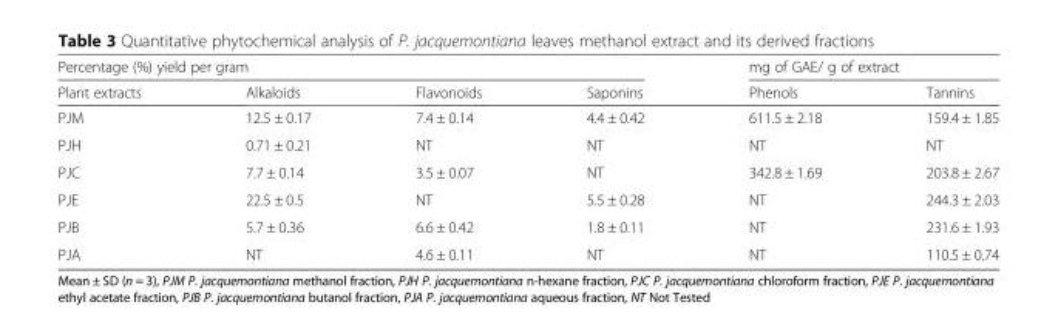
<table><thead><tr><td colspan="4">Percentage (%) yield per gram</td><td colspan="2">mg of GAE/ g of extract</td></tr><tr><td>Plant extracts</td><td>Alkaloids</td><td>Flavonoids</td><td>Saponins</td><td>Phenols</td><td>Tannins</td></tr></thead><tbody><tr><td>PJM</td><td>12.5 ± 0.17</td><td>7.4 ± 0.14</td><td>4.4 ± 0.42</td><td>611.5 ± 2.18</td><td>159.4 ± 1.85</td></tr><tr><td>PJH</td><td>0.71 ± 0.21</td><td>NT</td><td>NT</td><td>NT</td><td>NT</td></tr><tr><td>PJC</td><td>7.7 ± 0.14</td><td>3.5 ± 0.07</td><td>NT</td><td>342.8 ± 1.69</td><td>203.8 ± 2.67</td></tr><tr><td>PJE</td><td>22.5 ± 0.5</td><td>NT</td><td>5.5 ± 0.28</td><td>NT</td><td>244.3 ± 2.03</td></tr><tr><td>PJB</td><td>5.7 ± 0.36</td><td>6.6 ± 0.42</td><td>1.8 ± 0.11</td><td>NT</td><td>231.6 ± 1.93</td></tr><tr><td>PJA</td><td>NT</td><td>4.6 ± 0.11</td><td>NT</td><td>NT</td><td>110.5 ± 0.74</td></tr></tbody></table>